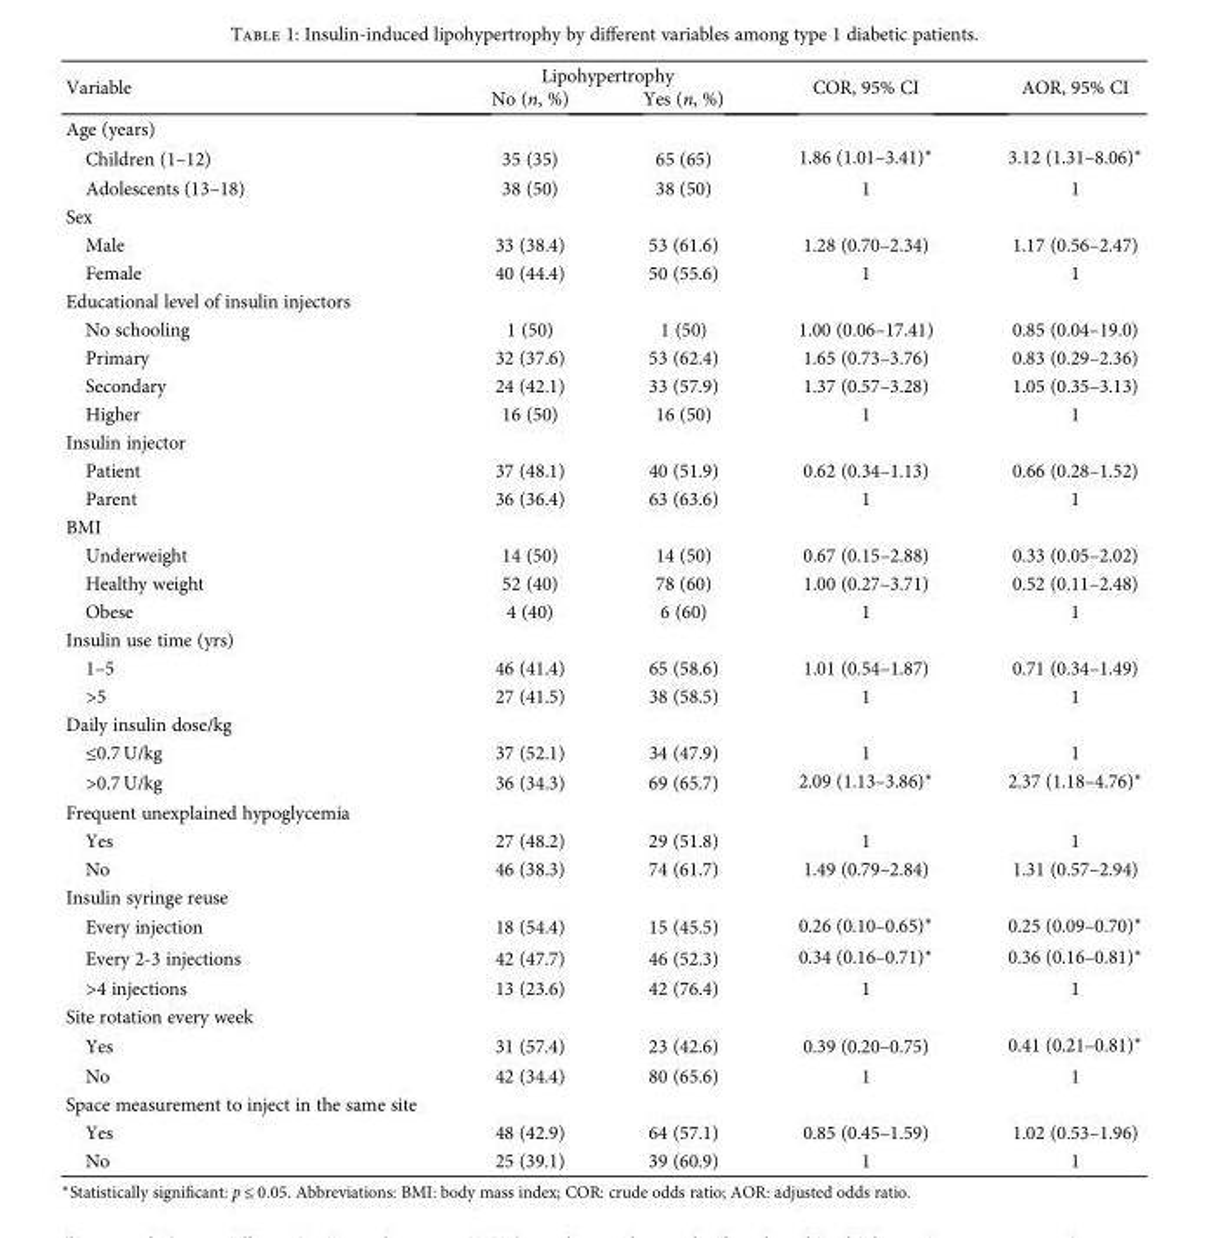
<table><thead><tr><td rowspan="2">Variable</td><td colspan="2">Lipohypertrophy</td><td rowspan="2">COR, 95% CI</td><td rowspan="2">AOR, 95% CI</td></tr><tr><td>No (n, %)</td><td>Yes (n, %)</td></tr></thead><tbody><tr><td colspan="5">Age (years)</td></tr><tr><td>Children (1–12)</td><td>35 (35)</td><td>65 (65)</td><td>1.86 (1.01–3.41)∗</td><td>3.12 (1.31–8.06)∗</td></tr><tr><td>Adolescents (13–18)</td><td>38 (50)</td><td>38 (50)</td><td>1</td><td>1</td></tr><tr><td colspan="5">Sex</td></tr><tr><td>Male</td><td>33 (38.4)</td><td>53 (61.6)</td><td>1.28 (0.70–2.34)</td><td>1.17 (0.56–2.47)</td></tr><tr><td>Female</td><td>40 (44.4)</td><td>50 (55.6)</td><td>1</td><td>1</td></tr><tr><td colspan="5">Educational level of insulin injectors</td></tr><tr><td>No schooling</td><td>1 (50)</td><td>1 (50)</td><td>1.00 (0.06–17.41)</td><td>0.85 (0.04–19.0)</td></tr><tr><td>Primary</td><td>32 (37.6)</td><td>53 (62.4)</td><td>1.65 (0.73–3.76)</td><td>0.83 (0.29–2.36)</td></tr><tr><td>Secondary</td><td>24 (42.1)</td><td>33 (57.9)</td><td>1.37 (0.57–3.28)</td><td>1.05 (0.35–3.13)</td></tr><tr><td>Higher</td><td>16 (50)</td><td>16 (50)</td><td>1</td><td>1</td></tr><tr><td colspan="5">Insulin injector</td></tr><tr><td>Patient</td><td>37 (48.1)</td><td>40 (51.9)</td><td>0.62 (0.34–1.13)</td><td>0.66 (0.28–1.52)</td></tr><tr><td>Parent</td><td>36 (36.4)</td><td>63 (63.6)</td><td>1</td><td>1</td></tr><tr><td colspan="5">BMI</td></tr><tr><td>Underweight</td><td>14 (50)</td><td>14 (50)</td><td>0.67 (0.15–2.88)</td><td>0.33 (0.05–2.02)</td></tr><tr><td>Healthy weight</td><td>52 (40)</td><td>78 (60)</td><td>1.00 (0.27–3.71)</td><td>0.52 (0.11–2.48)</td></tr><tr><td>Obese</td><td>4 (40)</td><td>6 (60)</td><td>1</td><td>1</td></tr><tr><td colspan="5">Insulin use time (yrs)</td></tr><tr><td>1–5</td><td>46 (41.4)</td><td>65 (58.6)</td><td>1.01 (0.54–1.87)</td><td>0.71 (0.34–1.49)</td></tr><tr><td>&gt;5</td><td>27 (41.5)</td><td>38 (58.5)</td><td>1</td><td>1</td></tr><tr><td colspan="5">Daily insulin dose/kg</td></tr><tr><td>≤0.7 U/kg</td><td>37 (52.1)</td><td>34 (47.9)</td><td>1</td><td>1</td></tr><tr><td>&gt;0.7 U/kg</td><td>36 (34.3)</td><td>69 (65.7)</td><td>2.09 (1.13–3.86)∗</td><td>2.37 (1.18–4.76)∗</td></tr><tr><td colspan="5">Frequent unexplained hypoglycemia</td></tr><tr><td>Yes</td><td>27 (48.2)</td><td>29 (51.8)</td><td>1</td><td>1</td></tr><tr><td>No</td><td>46 (38.3)</td><td>74 (61.7)</td><td>1.49 (0.79–2.84)</td><td>1.31 (0.57–2.94)</td></tr><tr><td colspan="5">Insulin syringe reuse</td></tr><tr><td>Every injection</td><td>18 (54.4)</td><td>15 (45.5)</td><td>0.26 (0.10–0.65)∗</td><td>0.25 (0.09–0.70)∗</td></tr><tr><td>Every 2-3 injections</td><td>42 (47.7)</td><td>46 (52.3)</td><td>0.34 (0.16–0.71)∗</td><td>0.36 (0.16–0.81)∗</td></tr><tr><td>&gt;4 injections</td><td>13 (23.6)</td><td>42 (76.4)</td><td>1</td><td>1</td></tr><tr><td colspan="5">Site rotation every week</td></tr><tr><td>Yes</td><td>31 (57.4)</td><td>23 (42.6)</td><td>0.39 (0.20–0.75)</td><td>0.41 (0.21–0.81)∗</td></tr><tr><td>No</td><td>42 (34.4)</td><td>80 (65.6)</td><td>1</td><td>1</td></tr><tr><td colspan="5">Space measurement to inject in the same site</td></tr><tr><td>Yes</td><td>48 (42.9)</td><td>64 (57.1)</td><td>0.85 (0.45–1.59)</td><td>1.02 (0.53–1.96)</td></tr><tr><td>No</td><td>25 (39.1)</td><td>39 (60.9)</td><td>1</td><td>1</td></tr></tbody></table>